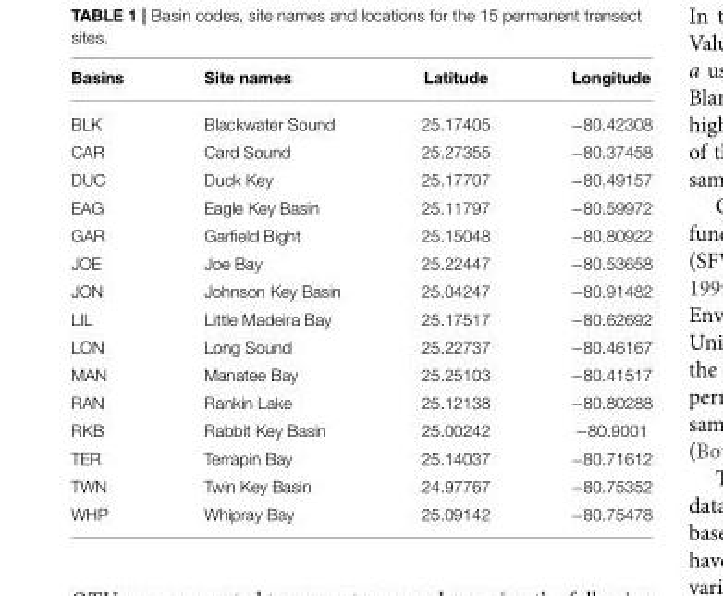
<table><thead><tr><td>Basins</td><td>Site names</td><td>Latitude</td><td>Longitude</td></tr></thead><tbody><tr><td>BLK</td><td>Blackwater Sound</td><td>25.17405</td><td>−80.42308</td></tr><tr><td>CAR</td><td>Card Sound</td><td>25.27355</td><td>−80.37458</td></tr><tr><td>DUC</td><td>Duck Key</td><td>25.17707</td><td>−80.49157</td></tr><tr><td>EAG</td><td>Eagle Key Basin</td><td>25.11797</td><td>−80.59972</td></tr><tr><td>GAR</td><td>Garfield Bight</td><td>25.15048</td><td>−80.80922</td></tr><tr><td>JOE</td><td>Joe Bay</td><td>25.22447</td><td>−80.53658</td></tr><tr><td>JON</td><td>Johnson Key Basin</td><td>25.04247</td><td>−80.91482</td></tr><tr><td>LIL</td><td>Little Madeira Bay</td><td>25.17517</td><td>−80.62692</td></tr><tr><td>LON</td><td>Long Sound</td><td>25.22737</td><td>−80.46167</td></tr><tr><td>MAN</td><td>Manatee Bay</td><td>25.25103</td><td>−80.41517</td></tr><tr><td>RAN</td><td>Rankin Lake</td><td>25.12138</td><td>−80.80288</td></tr><tr><td>RKB</td><td>Rabbit Key Basin</td><td>25.00242</td><td>−80.9001</td></tr><tr><td>TER</td><td>Terrapin Bay</td><td>25.14037</td><td>−80.71612</td></tr><tr><td>TWN</td><td>Twin Key Basin</td><td>24.97767</td><td>−80.75352</td></tr><tr><td>WHP</td><td>Whipray Bay</td><td>25.09142</td><td>−80.75478</td></tr></tbody></table>